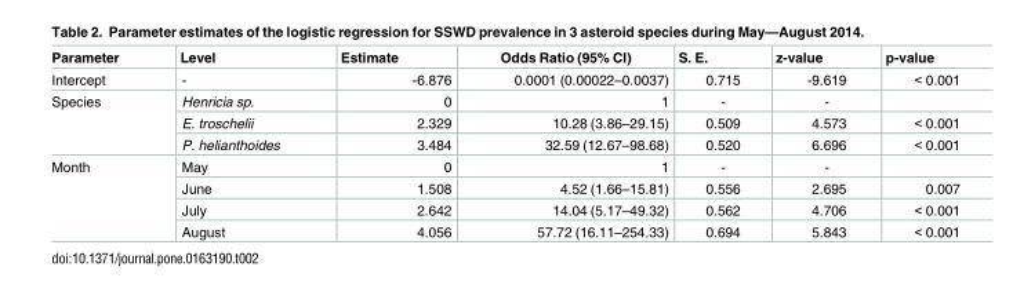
<table><thead><tr><td>Parameter</td><td>Level</td><td>Estimate</td><td>Odds Ratio (95% CI)</td><td>S. E.</td><td>z-value</td><td>p-value</td></tr></thead><tbody><tr><td>Intercept</td><td>-</td><td>-6.876</td><td>0.0001 (0.00022–0.0037)</td><td>0.715</td><td>-9.619</td><td>&lt; 0.001</td></tr><tr><td rowspan="3">Species</td><td>Henricia sp.</td><td>0</td><td>1</td><td>-</td><td>-</td><td></td></tr><tr><td>E. troschelii</td><td>2.329</td><td>10.28 (3.86–29.15)</td><td>0.509</td><td>4.573</td><td>&lt; 0.001</td></tr><tr><td>P. helianthoides</td><td>3.484</td><td>32.59 (12.67–98.68)</td><td>0.520</td><td>6.696</td><td>&lt; 0.001</td></tr><tr><td rowspan="4">Month</td><td>May</td><td>0</td><td>1</td><td>-</td><td>-</td><td></td></tr><tr><td>June</td><td>1.508</td><td>4.52 (1.66–15.81)</td><td>0.556</td><td>2.695</td><td>0.007</td></tr><tr><td>July</td><td>2.642</td><td>14.04 (5.17–49.32)</td><td>0.562</td><td>4.706</td><td>&lt; 0.001</td></tr><tr><td>August</td><td>4.056</td><td>57.72 (16.11–254.33)</td><td>0.694</td><td>5.843</td><td>&lt; 0.001</td></tr></tbody></table>